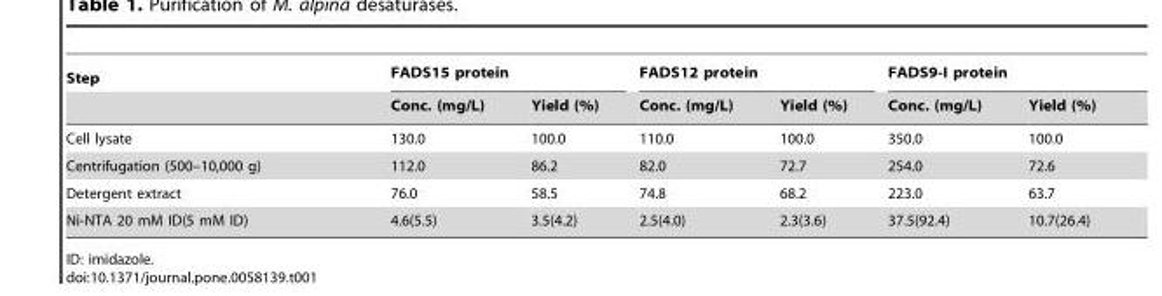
<table><thead><tr><td rowspan="2">Step</td><td colspan="2">FADS15 protein</td><td colspan="2">FADS12 protein</td><td colspan="2">FADS9-I protein</td></tr><tr><td>Conc. (mg/L)</td><td>Yield (%)</td><td>Conc. (mg/L)</td><td>Yield (%)</td><td>Conc. (mg/L)</td><td>Yield (%)</td></tr></thead><tbody><tr><td>Cell lysate</td><td>130.0</td><td>100.0</td><td>110.0</td><td>100.0</td><td>350.0</td><td>100.0</td></tr><tr><td>Centrifugation (500–10,000 g)</td><td>112.0</td><td>86.2</td><td>82.0</td><td>72.7</td><td>254.0</td><td>72.6</td></tr><tr><td>Detergent extract</td><td>76.0</td><td>58.5</td><td>74.8</td><td>68.2</td><td>223.0</td><td>63.7</td></tr><tr><td>Ni-NTA 20 mM ID(5 mM ID)</td><td>4.6(5.5)</td><td>3.5(4.2)</td><td>2.5(4.0)</td><td>2.3(3.6)</td><td>37.5(92.4)</td><td>10.7(26.4)</td></tr></tbody></table>